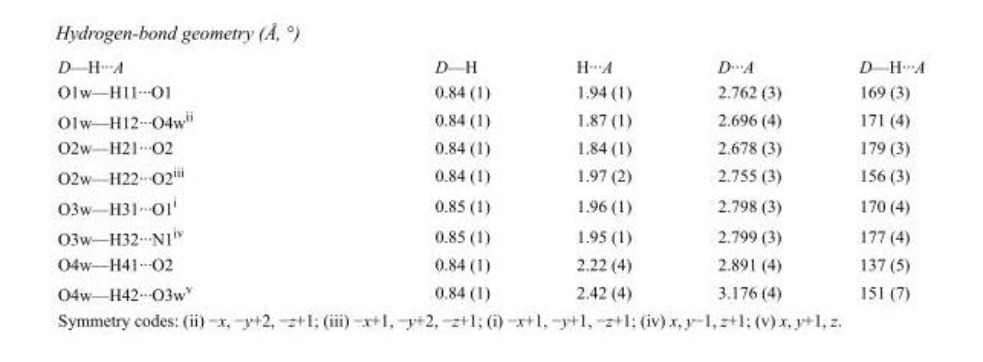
<table><tbody><tr><td>D—H···A</td><td>D—H</td><td>H···A</td><td>D···A</td><td>D—H···A</td></tr><tr><td>O1w—H11···O1</td><td>0.84 (1)</td><td>1.94 (1)</td><td>2.762 (3)</td><td>169 (3)</td></tr><tr><td>O1w—H12···O4w<sup>ii</sup></td><td>0.84 (1)</td><td>1.87 (1)</td><td>2.696 (4)</td><td>171 (4)</td></tr><tr><td>O2w—H21···O2</td><td>0.84 (1)</td><td>1.84 (1)</td><td>2.678 (3)</td><td>179 (3)</td></tr><tr><td>O2w—H22···O2<sup>iii</sup></td><td>0.84 (1)</td><td>1.97 (2)</td><td>2.755 (3)</td><td>156 (3)</td></tr><tr><td>O3w—H31···O1<sup>i</sup></td><td>0.85 (1)</td><td>1.96 (1)</td><td>2.798 (3)</td><td>170 (4)</td></tr><tr><td>O3w—H32···N1<sup>iv</sup></td><td>0.85 (1)</td><td>1.95 (1)</td><td>2.799 (3)</td><td>177 (4)</td></tr><tr><td>O4w—H41···O2</td><td>0.84 (1)</td><td>2.22 (4)</td><td>2.891 (4)</td><td>137 (5)</td></tr><tr><td>O4w—H42···O3w<sup>v</sup></td><td>0.84 (1)</td><td>2.42 (4)</td><td>3.176 (4)</td><td>151 (7)</td></tr></tbody></table>